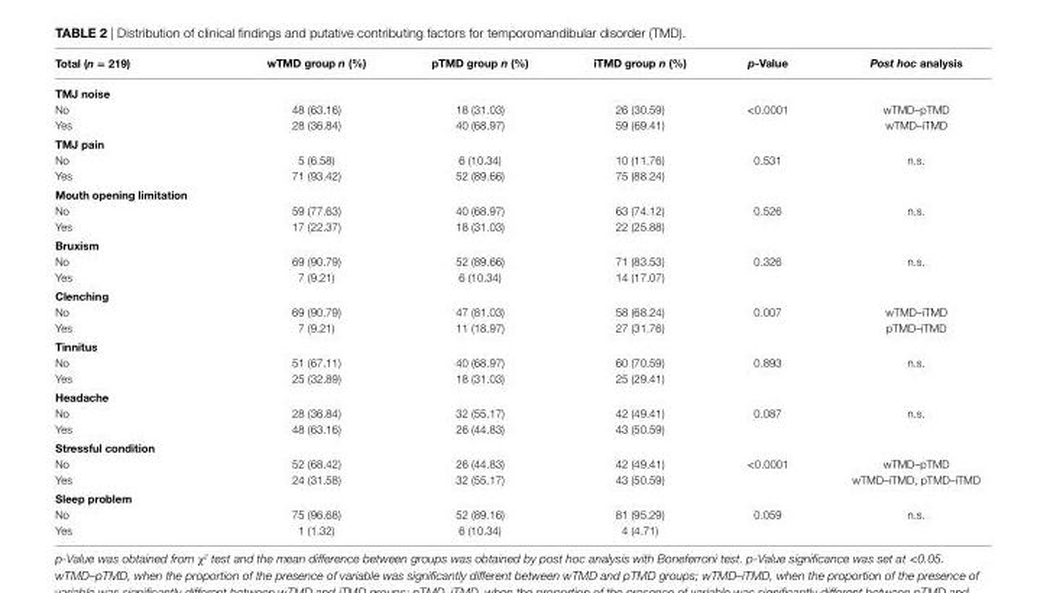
<table><thead><tr><td>Total (n = 219)</td><td>wTMD group n (%)</td><td>pTMD group n (%)</td><td>iTMD group n (%)</td><td>p-Value</td><td>Post hoc analysis</td></tr></thead><tbody><tr><td colspan="6">TMJ noise</td></tr><tr><td>No</td><td>48 (63.16)</td><td>18 (31.03)</td><td>26 (30.59)</td><td>&lt;0.0001</td><td>wTMD–pTMD</td></tr><tr><td>Yes</td><td>28 (36.84)</td><td>40 (68.97)</td><td>59 (69.41)</td><td></td><td>wTMD–iTMD</td></tr><tr><td colspan="6">TMJ pain</td></tr><tr><td>No</td><td>5 (6.58)</td><td>6 (10.34)</td><td>10 (11.76)</td><td>0.531</td><td>n.s.</td></tr><tr><td>Yes</td><td>71 (93.42)</td><td>52 (89.66)</td><td>75 (88.24)</td><td></td><td></td></tr><tr><td colspan="6">Mouth opening limitation</td></tr><tr><td>No</td><td>59 (77.63)</td><td>40 (68.97)</td><td>63 (74.12)</td><td>0.526</td><td>n.s.</td></tr><tr><td>Yes</td><td>17 (22.37)</td><td>18 (31.03)</td><td>22 (25.88)</td><td></td><td></td></tr><tr><td colspan="6">Bruxism</td></tr><tr><td>No</td><td>69 (90.79)</td><td>52 (89.66)</td><td>71 (83.53)</td><td>0.326</td><td>n.s.</td></tr><tr><td>Yes</td><td>7 (9.21)</td><td>6 (10.34)</td><td>14 (17.07)</td><td></td><td></td></tr><tr><td colspan="6">clenching</td></tr><tr><td>No</td><td>69 (90.79)</td><td>47 (81.03)</td><td>58 (68.24)</td><td>0.007</td><td>wTMD–iTMD</td></tr><tr><td>Yes</td><td>7 (9.21)</td><td>11 (18.97)</td><td>27 (31.76)</td><td></td><td>pTMD–iTMD</td></tr><tr><td colspan="6">Tinnitus</td></tr><tr><td>No</td><td>51 (67.11)</td><td>40 (68.97)</td><td>60 (70.59)</td><td>0.893</td><td>n.s.</td></tr><tr><td>Yes</td><td>25 (32.89)</td><td>18 (31.03)</td><td>25 (29.41)</td><td></td><td></td></tr><tr><td colspan="6">headache</td></tr><tr><td>No</td><td>28 (36.84)</td><td>32 (55.17)</td><td>42 (49.41)</td><td>0.087</td><td>n.s.</td></tr><tr><td>Yes</td><td>48 (63.16)</td><td>26 (44.83)</td><td>43 (50.59)</td><td></td><td></td></tr><tr><td colspan="6">stressful condition</td></tr><tr><td>No</td><td>52 (68.42)</td><td>26 (44.83)</td><td>42 (49.41)</td><td>&lt;0.0001</td><td>wTMD–pTMD</td></tr><tr><td>Yes</td><td>24 (31.58)</td><td>32 (55.17)</td><td>43 (50.59)</td><td></td><td>wTMD–iTMD, pTMD–iTMD</td></tr><tr><td colspan="6">sleep problem</td></tr><tr><td>No</td><td>75 (96.68)</td><td>52 (89.16)</td><td>81 (95.29)</td><td>0.059</td><td>n.s.</td></tr><tr><td>Yes</td><td>1 (1.32)</td><td>6 (10.34)</td><td>4 (4.71)</td><td></td><td></td></tr></tbody></table>